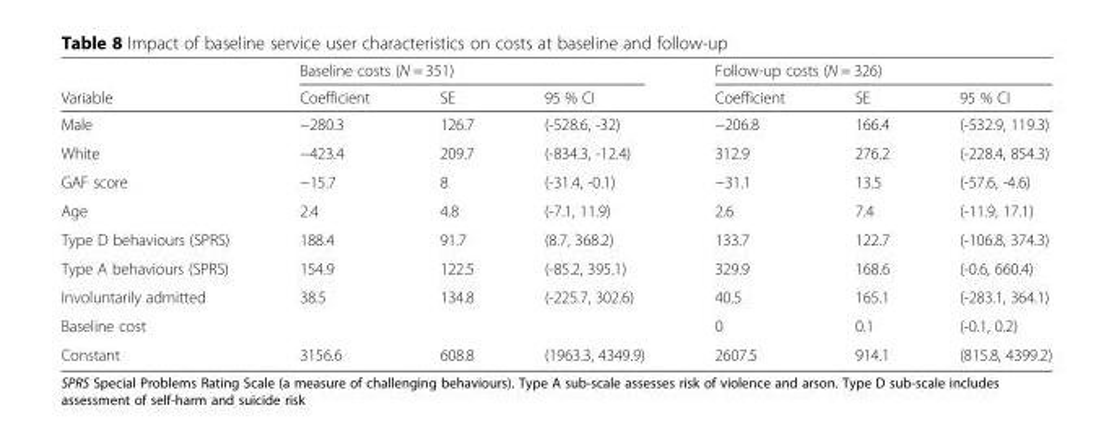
<table><thead><tr><td rowspan="2">Variable</td><td colspan="3">Baseline costs (N = 351)</td><td colspan="3">Follow-up costs (N = 326)</td></tr><tr><td>Coefficient</td><td>SE</td><td>95 % CI</td><td>Coefficient</td><td>SE</td><td>95 % CI</td></tr></thead><tbody><tr><td>Male</td><td>−280.3</td><td>126.7</td><td>(-528.6, -32)</td><td>−206.8</td><td>166.4</td><td>(-532.9, 119.3)</td></tr><tr><td>White</td><td>−423.4</td><td>209.7</td><td>(-834.3, -12.4)</td><td>312.9</td><td>276.2</td><td>(-228.4, 854.3)</td></tr><tr><td>GAF score</td><td>−15.7</td><td>8</td><td>(-31.4, -0.1)</td><td>−31.1</td><td>13.5</td><td>(-57.6, -4.6)</td></tr><tr><td>Age</td><td>2.4</td><td>4.8</td><td>(-7.1, 11.9)</td><td>2.6</td><td>7.4</td><td>(-11.9, 17.1)</td></tr><tr><td>Type D behaviours (SPRS)</td><td>188.4</td><td>91.7</td><td>(8.7, 368.2)</td><td>133.7</td><td>122.7</td><td>(-106.8, 374.3)</td></tr><tr><td>Type A behaviours (SPRS)</td><td>154.9</td><td>122.5</td><td>(-85.2, 395.1)</td><td>329.9</td><td>168.6</td><td>(-0.6, 660.4)</td></tr><tr><td>Involuntarily admitted</td><td>38.5</td><td>134.8</td><td>(-225.7, 302.6)</td><td>40.5</td><td>165.1</td><td>(-283.1, 364.1)</td></tr><tr><td>Baseline cost</td><td></td><td></td><td></td><td>0</td><td>0.1</td><td>(-0.1, 0.2)</td></tr><tr><td>Constant</td><td>3156.6</td><td>608.8</td><td>(1963.3, 4349.9)</td><td>2607.5</td><td>914.1</td><td>(815.8, 4399.2)</td></tr></tbody></table>